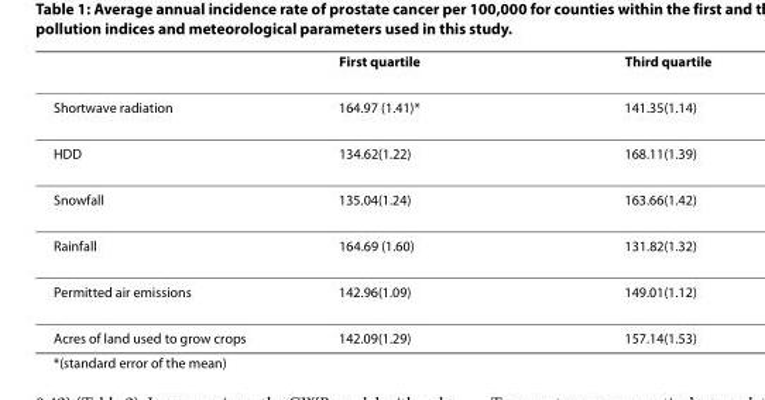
<table><thead><tr><td></td><td>First quartile</td><td>Third quartile</td></tr></thead><tbody><tr><td>Shortwave radiation</td><td>164.97 (1.41)*</td><td>141.35(1.14)</td></tr><tr><td>HDD</td><td>134.62(1.22)</td><td>168.11(1.39)</td></tr><tr><td>Snowfall</td><td>135.04(1.24)</td><td>163.66(1.42)</td></tr><tr><td>Rainfall</td><td>164.69 (1.60)</td><td>131.82(1.32)</td></tr><tr><td>Permitted air emissions</td><td>142.96(1.09)</td><td>149.01(1.12)</td></tr><tr><td>Acres of land used to grow crops</td><td>142.09(1.29)</td><td>157.14(1.53)</td></tr></tbody></table>